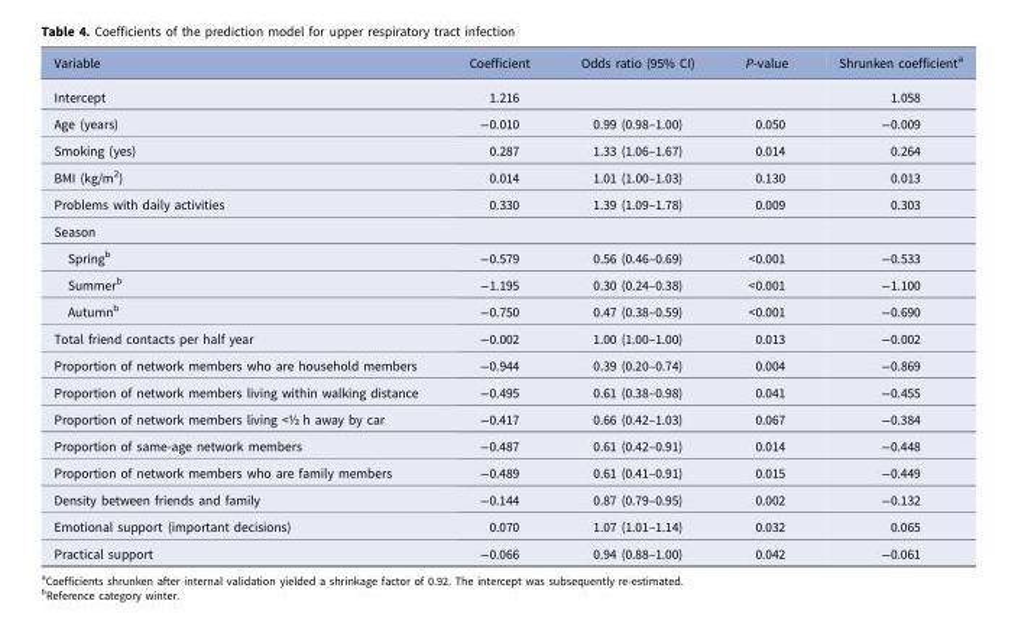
<table><thead><tr><td>Variable</td><td>Coefficient</td><td>Odds ratio (95% CI)</td><td>P-value</td><td>Shrunken coefficient<sup>a</sup></td></tr></thead><tbody><tr><td>Intercept</td><td>1.216</td><td></td><td></td><td>1.058</td></tr><tr><td>Age (years)</td><td>−0.010</td><td>0.99 (0.98–1.00)</td><td>0.050</td><td>−0.009</td></tr><tr><td>Smoking (yes)</td><td>0.287</td><td>1.33 (1.06–1.67)</td><td>0.014</td><td>0.264</td></tr><tr><td>BMI (kg/m<sup>2</sup>)</td><td>0.014</td><td>1.01 (1.00–1.03)</td><td>0.130</td><td>0.013</td></tr><tr><td>Problems with daily activities</td><td>0.330</td><td>1.39 (1.09–1.78)</td><td>0.009</td><td>0.303</td></tr><tr><td colspan="5">Season</td></tr><tr><td>Spring<sup>b</sup></td><td>−0.579</td><td>0.56 (0.46–0.69)</td><td>&lt;0.001</td><td>−0.533</td></tr><tr><td>Summer<sup>b</sup></td><td>−1.195</td><td>0.30 (0.24–0.38)</td><td>&lt;0.001</td><td>−1.100</td></tr><tr><td>Autumn<sup>b</sup></td><td>−0.750</td><td>0.47 (0.38–0.59)</td><td>&lt;0.001</td><td>−0.690</td></tr><tr><td>Total friend contacts per half year</td><td>−0.002</td><td>1.00 (1.00–1.00)</td><td>0.013</td><td>−0.002</td></tr><tr><td>Proportion of network members who are household members</td><td>−0.944</td><td>0.39 (0.20–0.74)</td><td>0.004</td><td>−0.869</td></tr><tr><td>Proportion of network members living within walking distance</td><td>−0.495</td><td>0.61 (0.38–0.98)</td><td>0.041</td><td>−0.455</td></tr><tr><td>Proportion of network members living &lt;½ h away by car</td><td>−0.417</td><td>0.66 (0.42–1.03)</td><td>0.067</td><td>−0.384</td></tr><tr><td>Proportion of same-age network members</td><td>−0.487</td><td>0.61 (0.42–0.91)</td><td>0.014</td><td>−0.448</td></tr><tr><td>Proportion of network members who are family members</td><td>−0.489</td><td>0.61 (0.41–0.91)</td><td>0.015</td><td>−0.449</td></tr><tr><td>Density between friends and family</td><td>−0.144</td><td>0.87 (0.79–0.95)</td><td>0.002</td><td>−0.132</td></tr><tr><td>Emotional support (important decisions)</td><td>0.070</td><td>1.07 (1.01–1.14)</td><td>0.032</td><td>0.065</td></tr><tr><td>Practical support</td><td>−0.066</td><td>0.94 (0.88–1.00)</td><td>0.042</td><td>−0.061</td></tr></tbody></table>